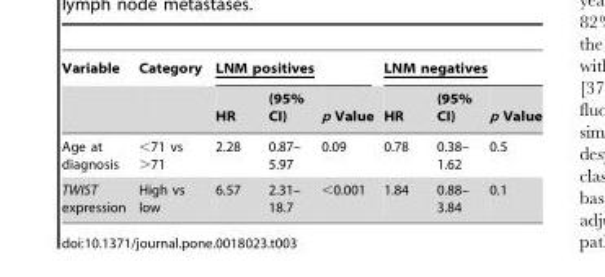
<table><thead><tr><td rowspan="2">Variable</td><td rowspan="2">Category</td><td colspan="3">LNM positives</td><td colspan="3">LNM negatives</td></tr><tr><td>HR</td><td>(95% CI)</td><td>p Value</td><td>HR</td><td>(95% CI)</td><td>p Value</td></tr></thead><tbody><tr><td>Age at diagnosis</td><td>&lt;71 vs &gt;71</td><td>2.28</td><td>0.87– 5.97</td><td>0.09</td><td>0.78</td><td>0.38– 1.62</td><td>0.5</td></tr><tr><td>TWIST expression</td><td>High vs low</td><td>6.57</td><td>2.31– 18.7</td><td>&lt;0.001</td><td>1.84</td><td>0.88– 3.84</td><td>0.1</td></tr></tbody></table>